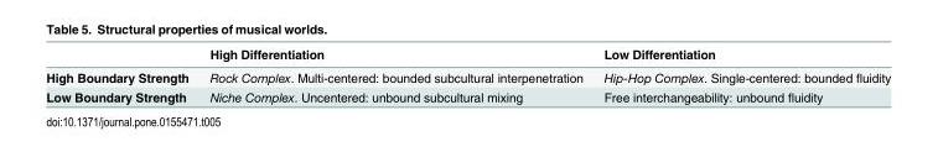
<table><thead><tr><td></td><td>High Differentiation</td><td>Low Differentiation</td></tr></thead><tbody><tr><td>High Boundary Strength</td><td>Rock Complex. Multi-centered: bounded subcultural interpenetration</td><td>Hip-Hop Complex. Single-centered: bounded fluidity</td></tr><tr><td>Low Boundary Strength</td><td>Niche Complex. Uncentered: unbound subcultural mixing</td><td>Free interchangeability: unbound fluidity</td></tr></tbody></table>